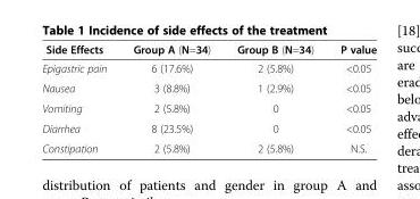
<table><thead><tr><td>Side Effects</td><td>Group A (N=34)</td><td>Group B (N=34)</td><td>P value</td></tr></thead><tbody><tr><td>Epigastric pain</td><td>6 (17.6%)</td><td>2 (5.8%)</td><td>&lt;0.05</td></tr><tr><td>Nausea</td><td>3 (8.8%)</td><td>1 (2.9%)</td><td>&lt;0.05</td></tr><tr><td>Vomiting</td><td>2 (5.8%)</td><td>0</td><td>&lt;0.05</td></tr><tr><td>Diarrhea</td><td>8 (23.5%)</td><td>0</td><td>&lt;0.05</td></tr><tr><td>Constipation</td><td>2 (5.8%)</td><td>2 (5.8%)</td><td>N.S.</td></tr></tbody></table>